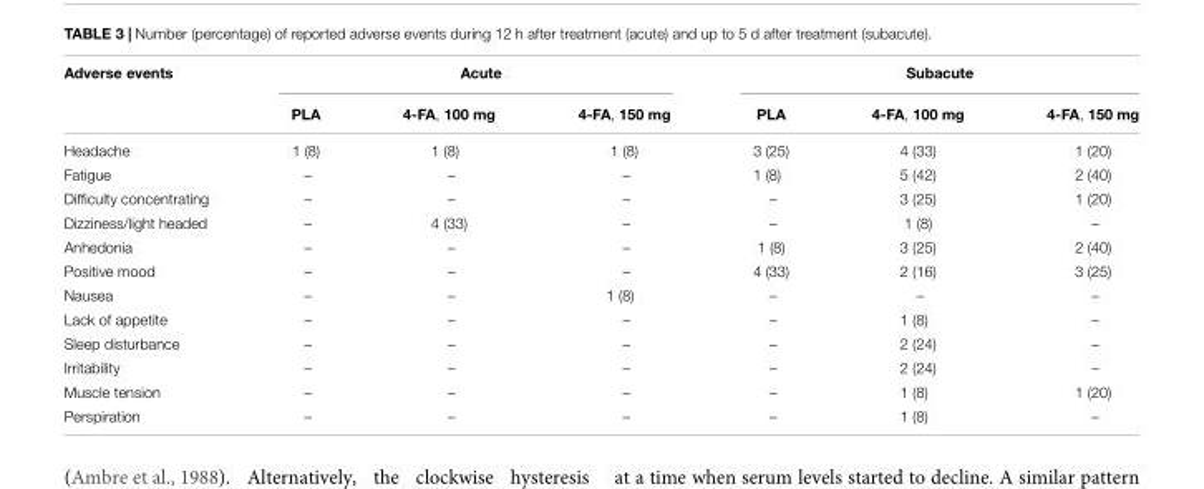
<table><thead><tr><td rowspan="2">Adverse events</td><td colspan="3">Acute</td><td colspan="3">Subacute</td></tr><tr><td>PLA</td><td>4-FA, 100 mg</td><td>4-FA, 150 mg</td><td>PLA</td><td>4-FA, 100 mg</td><td>4-FA, 150 mg</td></tr></thead><tbody><tr><td>Headache</td><td>1 (8)</td><td>1 (8)</td><td>1 (8)</td><td>3 (25)</td><td>4 (33)</td><td>1 (20)</td></tr><tr><td>Fatigue</td><td>–</td><td>–</td><td>–</td><td>1 (8)</td><td>5 (42)</td><td>2 (40)</td></tr><tr><td>Difficulty concentrating</td><td>–</td><td>–</td><td>–</td><td>–</td><td>3 (25)</td><td>1 (20)</td></tr><tr><td>Dizziness/light headed</td><td>–</td><td>4 (33)</td><td>–</td><td>–</td><td>1 (8)</td><td>–</td></tr><tr><td>Anhedonia</td><td>–</td><td>–</td><td>–</td><td>1 (8)</td><td>3 (25)</td><td>2 (40)</td></tr><tr><td>Positive mood</td><td>–</td><td>–</td><td>–</td><td>4 (33)</td><td>2 (16)</td><td>3 (25)</td></tr><tr><td>Nausea</td><td>–</td><td>–</td><td>1 (8)</td><td>–</td><td>–</td><td>–</td></tr><tr><td>Lack of appetite</td><td>–</td><td>–</td><td>–</td><td>–</td><td>1 (8)</td><td>–</td></tr><tr><td>Sleep disturbance</td><td>–</td><td>–</td><td>–</td><td>–</td><td>2 (24)</td><td>–</td></tr><tr><td>Irritability</td><td>–</td><td>–</td><td>–</td><td>–</td><td>2 (24)</td><td>–</td></tr><tr><td>Muscle tension</td><td>–</td><td>–</td><td>–</td><td>–</td><td>1 (8)</td><td>1 (20)</td></tr><tr><td>Perspiration</td><td>–</td><td>–</td><td>–</td><td>–</td><td>1 (8)</td><td>–</td></tr></tbody></table>